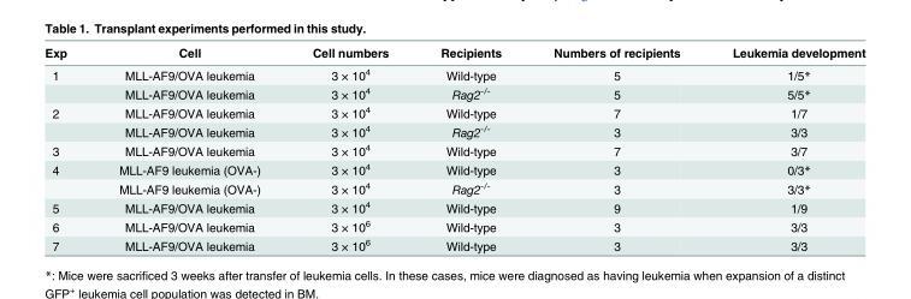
<table><thead><tr><td>Exp</td><td>Cell</td><td>Cell numbers</td><td>Recipients</td><td>Numbers of recipients</td><td>Leukemia development</td></tr></thead><tbody><tr><td rowspan="2">1</td><td>MLL-AF9/OVA leukemia</td><td>3 × 10<sup>4</sup></td><td>Wild-type</td><td>5</td><td>1/5*</td></tr><tr><td>MLL-AF9/OVA leukemia</td><td>3 × 10<sup>4</sup></td><td>Rag2<sup>-/-</sup></td><td>5</td><td>5/5*</td></tr><tr><td rowspan="2">2</td><td>MLL-AF9/OVA leukemia</td><td>3 × 10<sup>4</sup></td><td>Wild-type</td><td>7</td><td>1/7</td></tr><tr><td>MLL-AF9/OVA leukemia</td><td>3 × 10<sup>4</sup></td><td>Rag2<sup>-/-</sup></td><td>3</td><td>3/3</td></tr><tr><td>3</td><td>MLL-AF9/OVA leukemia</td><td>3 × 10<sup>4</sup></td><td>Wild-type</td><td>7</td><td>3/7</td></tr><tr><td rowspan="2">4</td><td>MLL-AF9 leukemia (OVA-)</td><td>3 × 10<sup>4</sup></td><td>Wild-type</td><td>3</td><td>0/3*</td></tr><tr><td>MLL-AF9 leukemia (OVA-)</td><td>3 × 10<sup>4</sup></td><td>Rag2<sup>-/-</sup></td><td>3</td><td>3/3*</td></tr><tr><td>5</td><td>MLL-AF9/OVA leukemia</td><td>3 × 10<sup>4</sup></td><td>Wild-type</td><td>9</td><td>1/9</td></tr><tr><td>6</td><td>MLL-AF9/OVA leukemia</td><td>3 × 10<sup>6</sup></td><td>Wild-type</td><td>3</td><td>3/3</td></tr><tr><td>7</td><td>MLL-AF9/OVA leukemia</td><td>3 × 10<sup>6</sup></td><td>Wild-type</td><td>3</td><td>3/3</td></tr></tbody></table>